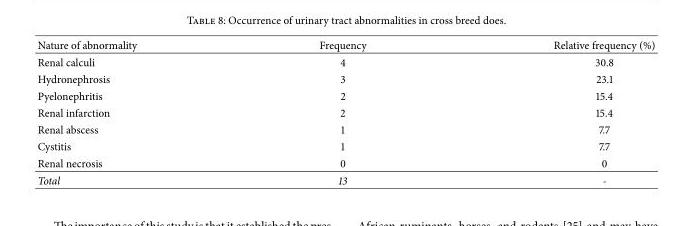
<table><thead><tr><td>Nature of abnormality</td><td>Frequency</td><td>Relative frequency (%)</td></tr></thead><tbody><tr><td>Renal calculi</td><td>4</td><td>30.8</td></tr><tr><td>Hydronephrosis</td><td>3</td><td>23.1</td></tr><tr><td>Pyelonephritis</td><td>2</td><td>15.4</td></tr><tr><td>Renal infarction</td><td>2</td><td>15.4</td></tr><tr><td>Renal abscess</td><td>1</td><td>7.7</td></tr><tr><td>Cystitis</td><td>1</td><td>7.7</td></tr><tr><td>Renal necrosis</td><td>0</td><td>0</td></tr><tr><td>Total</td><td>13</td><td>-</td></tr></tbody></table>